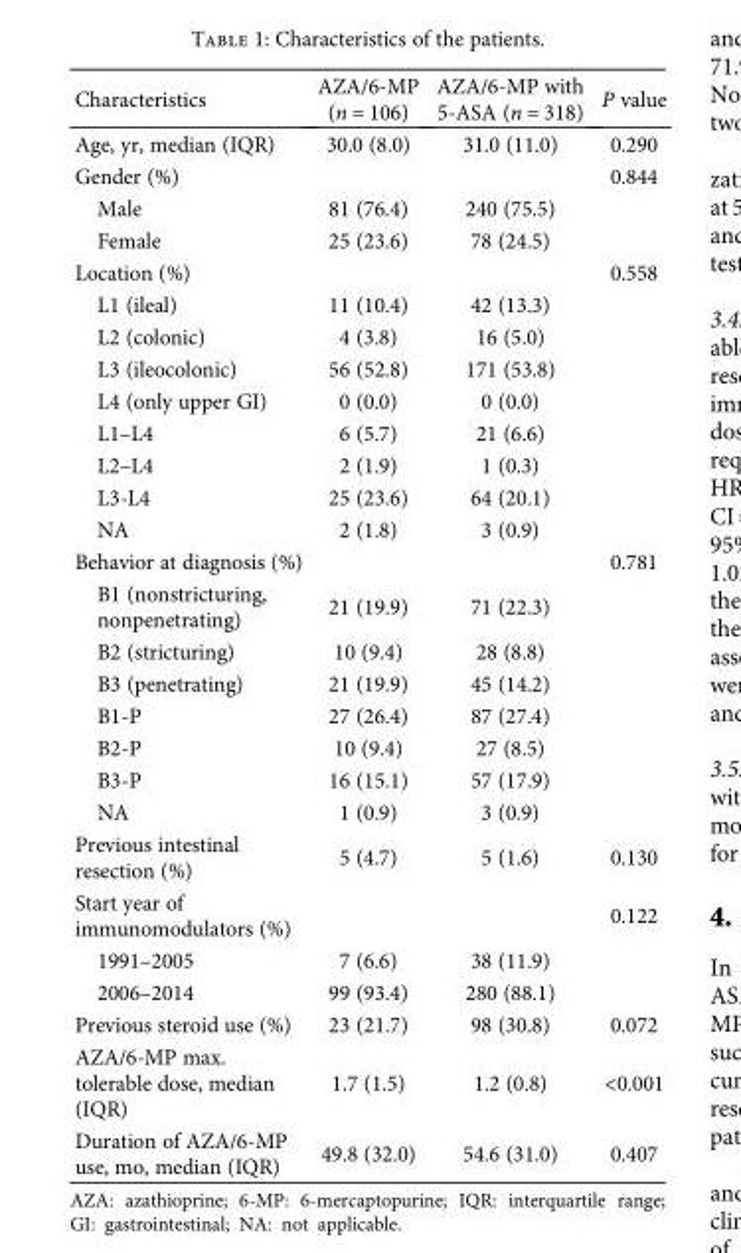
<table><thead><tr><td>Characteristics</td><td>AZA/6-MP (n = 106)</td><td>AZA/6-MP with 5-ASA (n = 318)</td><td>P value</td></tr></thead><tbody><tr><td>Age, yr, median (IQR)</td><td>30.0 (8.0)</td><td>31.0 (11.0)</td><td>0.290</td></tr><tr><td>Gender (%)</td><td></td><td></td><td>0.844</td></tr><tr><td>Male</td><td>81 (76.4)</td><td>240 (75.5)</td><td></td></tr><tr><td>Female</td><td>25 (23.6)</td><td>78 (24.5)</td><td></td></tr><tr><td>Location (%)</td><td></td><td></td><td>0.558</td></tr><tr><td>L1 (ileal)</td><td>11 (10.4)</td><td>42 (13.3)</td><td></td></tr><tr><td>L2 (colonic)</td><td>4 (3.8)</td><td>16 (5.0)</td><td></td></tr><tr><td>L3 (ileocolonic)</td><td>56 (52.8)</td><td>171 (53.8)</td><td></td></tr><tr><td>L4 (only upper GI)</td><td>0 (0.0)</td><td>0 (0.0)</td><td></td></tr><tr><td>L1–L4</td><td>6 (5.7)</td><td>21 (6.6)</td><td></td></tr><tr><td>L2–L4</td><td>2 (1.9)</td><td>1 (0.3)</td><td></td></tr><tr><td>L3-L4</td><td>25 (23.6)</td><td>64 (20.1)</td><td></td></tr><tr><td>NA</td><td>2 (1.8)</td><td>3 (0.9)</td><td></td></tr><tr><td>Behavior at diagnosis (%)</td><td></td><td></td><td>0.781</td></tr><tr><td>B1 (nonstricturing, nonpenetrating)</td><td>21 (19.9)</td><td>71 (22.3)</td><td></td></tr><tr><td>B2 (stricturing)</td><td>10 (9.4)</td><td>28 (8.8)</td><td></td></tr><tr><td>B3 (penetrating)</td><td>21 (19.9)</td><td>45 (14.2)</td><td></td></tr><tr><td>B1-P</td><td>27 (26.4)</td><td>87 (27.4)</td><td></td></tr><tr><td>B2-P</td><td>10 (9.4)</td><td>27 (8.5)</td><td></td></tr><tr><td>B3-P</td><td>16 (15.1)</td><td>57 (17.9)</td><td></td></tr><tr><td>NA</td><td>1 (0.9)</td><td>3 (0.9)</td><td></td></tr><tr><td>Previous intestinal resection (%)</td><td>5 (4.7)</td><td>5 (1.6)</td><td>0.130</td></tr><tr><td>Start year of immunomodulators (%)</td><td></td><td></td><td>0.122</td></tr><tr><td>1991–2005</td><td>7 (6.6)</td><td>38 (11.9)</td><td></td></tr><tr><td>2006–2014</td><td>99 (93.4)</td><td>280 (88.1)</td><td></td></tr><tr><td>Previous steroid use (%)</td><td>23 (21.7)</td><td>98 (30.8)</td><td>0.072</td></tr><tr><td>AZA/6-MP max. tolerable dose, median (IQR)</td><td>1.7 (1.5)</td><td>1.2 (0.8)</td><td>&lt;0.001</td></tr><tr><td>Duration of AZA/6-MP use, mo, median (IQR)</td><td>49.8 (32.0)</td><td>54.6 (31.0)</td><td>0.407</td></tr></tbody></table>